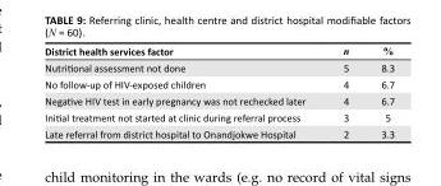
<table><thead><tr><td>District health services factor</td><td>n</td><td>%</td></tr></thead><tbody><tr><td>Nutritional assessment not done</td><td>5</td><td>8.3</td></tr><tr><td>No follow-up of HIV-exposed children</td><td>4</td><td>6.7</td></tr><tr><td>Negative HIV test in early pregnancy was not rechecked later</td><td>4</td><td>6.7</td></tr><tr><td>Initial treatment not started at clinic during referral process</td><td>3</td><td>5</td></tr><tr><td>Late referral from district hospital to Onandjokwe Hospital</td><td>2</td><td>3.3</td></tr></tbody></table>